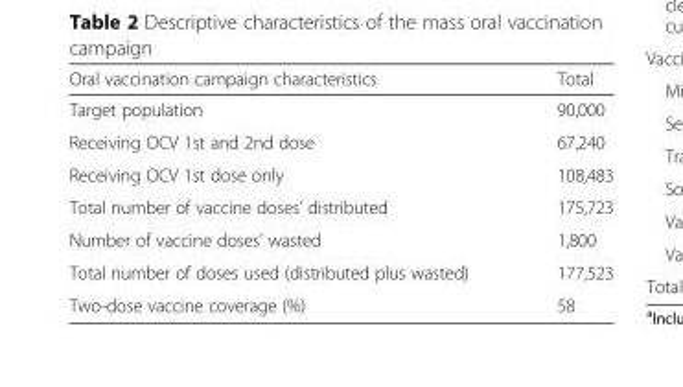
<table><thead><tr><td>Oral vaccination campaign characteristics</td><td>Total</td></tr></thead><tbody><tr><td>Target population</td><td>90,000</td></tr><tr><td>Receiving OCV 1st and 2nd dose</td><td>67,240</td></tr><tr><td>Receiving OCV 1st dose only</td><td>108,483</td></tr><tr><td>Total number of vaccine doses’ distributed</td><td>175,723</td></tr><tr><td>Number of vaccine doses’ wasted</td><td>1,800</td></tr><tr><td>Total number of doses used (distributed plus wasted)</td><td>177,523</td></tr><tr><td>Two-dose vaccine coverage (%)</td><td>58</td></tr></tbody></table>